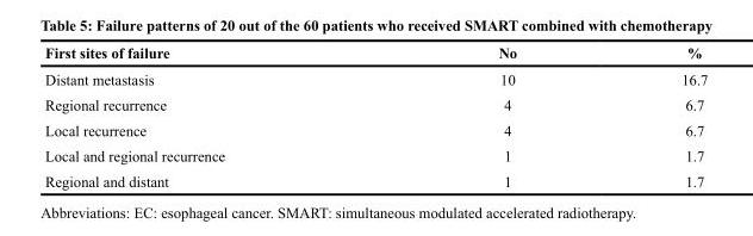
<table><thead><tr><td>First sites of failure</td><td>No</td><td>%</td></tr></thead><tbody><tr><td>Distant metastasis</td><td>10</td><td>16.7</td></tr><tr><td>Regional recurrence</td><td>4</td><td>6.7</td></tr><tr><td>Local recurrence</td><td>4</td><td>6.7</td></tr><tr><td>Local and regional recurrence</td><td>1</td><td>1.7</td></tr><tr><td>Regional and distant</td><td>1</td><td>1.7</td></tr></tbody></table>